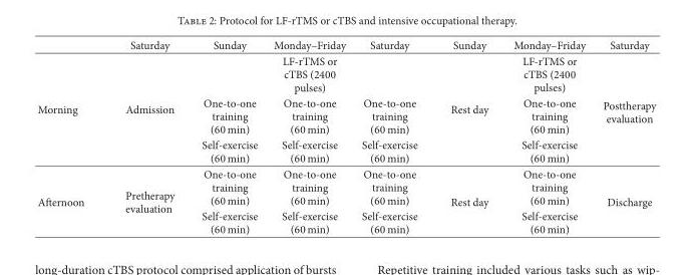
<table><thead><tr><td></td><td>Saturday</td><td>Sunday</td><td>Monday–Friday</td><td>Saturday</td><td>Sunday</td><td>Monday–Friday</td><td>Saturday</td></tr></thead><tbody><tr><td rowspan="3">Morning</td><td rowspan="3">Admission</td><td></td><td>LF-rTMS or cTBS (2400 pulses)</td><td></td><td rowspan="3">Rest day</td><td>LF-rTMS or cTBS (2400 pulses)</td><td rowspan="3">Posttherapy evaluation</td></tr><tr><td>One-to-one training (60 min)</td><td>One-to-one training (60 min)</td><td>One-to-one training (60 min)</td><td>One-to-one training (60 min)</td></tr><tr><td>Self-exercise (60 min)</td><td>Self-exercise (60 min)</td><td>Self-exercise (60 min)</td><td>Self-exercise (60 min)</td></tr><tr><td rowspan="2">Afternoon</td><td rowspan="2">Pretherapy evaluation</td><td>One-to-one training (60 min)</td><td>One-to-one training (60 min)</td><td>One-to-one training (60 min)</td><td rowspan="2">Rest day</td><td>One-to-one training (60 min)</td><td rowspan="2">Discharge</td></tr><tr><td>Self-exercise (60 min)</td><td>Self-exercise (60 min)</td><td>Self-exercise (60 min)</td><td>Self-exercise (60 min)</td></tr></tbody></table>